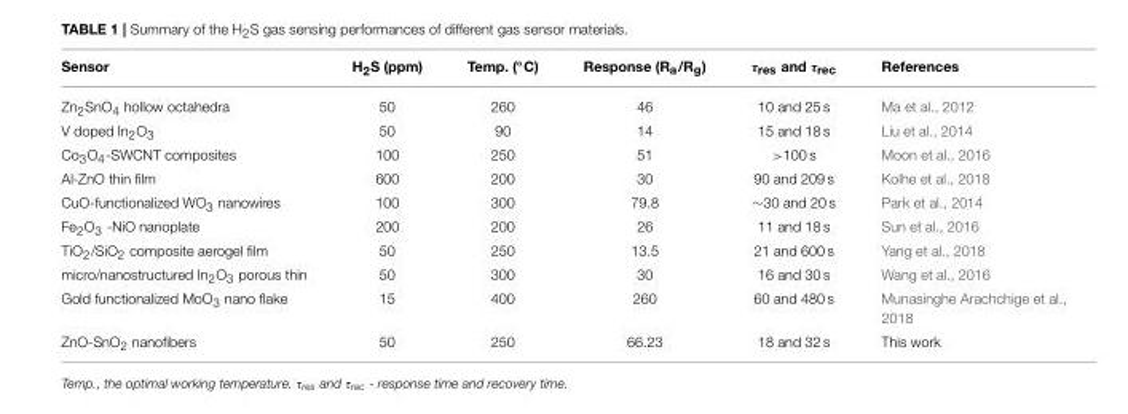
<table><thead><tr><td>Sensor</td><td>H<sub>2</sub>S (ppm)</td><td>Temp. (◦C)</td><td>Response (R<sub>a</sub>/R<sub>g</sub>)</td><td>τ<sub>res</sub> and τ<sub>rec</sub></td><td>References</td></tr></thead><tbody><tr><td>Zn<sub>2</sub>SnO<sub>4</sub> hollow octahedra</td><td>50</td><td>260</td><td>46</td><td>10 and 25 s</td><td>Ma et al., 2012</td></tr><tr><td>V doped In<sub>2</sub>O<sub>3</sub></td><td>50</td><td>90</td><td>14</td><td>15 and 18 s</td><td>Liu et al., 2014</td></tr><tr><td>Co<sub>3</sub>O<sub>4</sub>-SWCNT composites</td><td>100</td><td>250</td><td>51</td><td>&gt;100 s</td><td>Moon et al., 2016</td></tr><tr><td>Al-ZnO thin film</td><td>600</td><td>200</td><td>30</td><td>90 and 209 s</td><td>Kolhe et al., 2018</td></tr><tr><td>CuO-functionalized WO<sub>3</sub> nanowires</td><td>100</td><td>300</td><td>79.8</td><td>∼30 and 20 s</td><td>Park et al., 2014</td></tr><tr><td>Fe<sub>2</sub>O<sub>3</sub> -NiO nanoplate</td><td>200</td><td>200</td><td>26</td><td>11 and 18 s</td><td>Sun et al., 2016</td></tr><tr><td>TiO<sub>2</sub>/SiO<sub>2</sub> composite aerogel film</td><td>50</td><td>250</td><td>13.5</td><td>21 and 600 s</td><td>Yang et al., 2018</td></tr><tr><td>micro/nanostructured In<sub>2</sub>O<sub>3</sub> porous thin</td><td>50</td><td>300</td><td>30</td><td>16 and 30 s</td><td>Wang et al., 2016</td></tr><tr><td>Gold functionalized MoO<sub>3</sub> nano flake</td><td>15</td><td>400</td><td>260</td><td>60 and 480 s</td><td>Munasinghe Arachchige et al., 2018</td></tr><tr><td>ZnO-SnO<sub>2</sub> nanofibers</td><td>50</td><td>250</td><td>66.23</td><td>18 and 32 s</td><td>This work</td></tr></tbody></table>